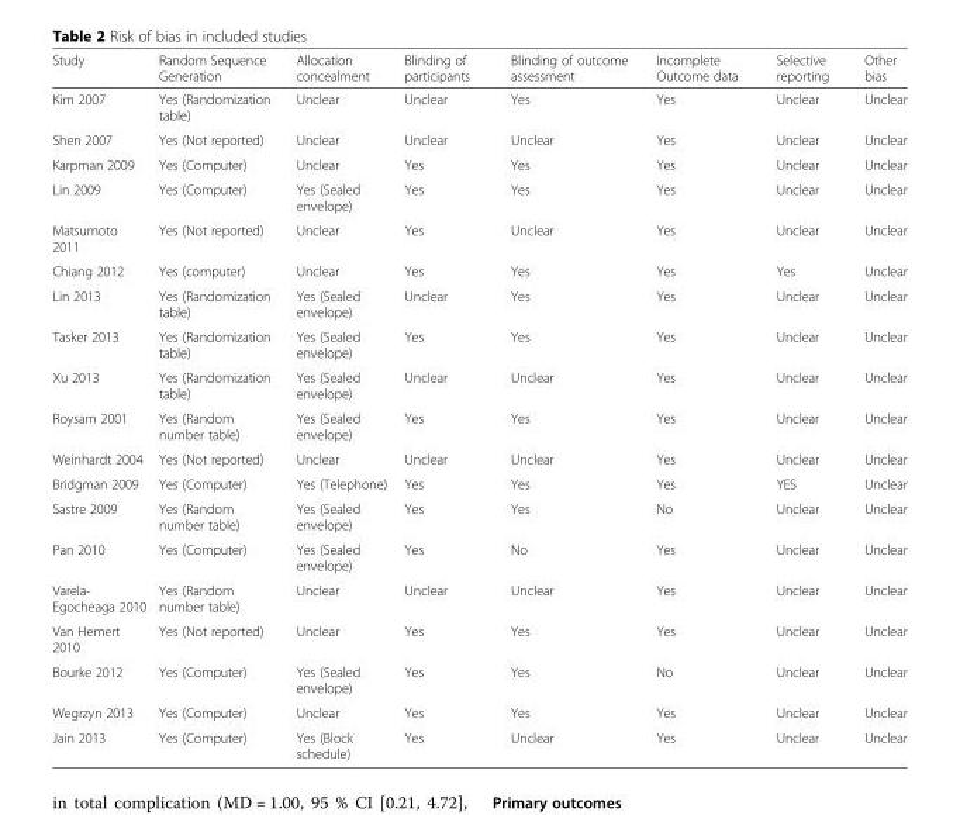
<table><thead><tr><td>Study</td><td>Random Sequence Generation</td><td>Allocation concealment</td><td>Blinding of participants</td><td>Blinding of outcome assessment</td><td>Incomplete Outcome data</td><td>Selective reporting</td><td>Other bias</td></tr></thead><tbody><tr><td>Kim 2007</td><td>Yes (Randomization table)</td><td>Unclear</td><td>Unclear</td><td>Yes</td><td>Yes</td><td>Unclear</td><td>Unclear</td></tr><tr><td>Shen 2007</td><td>Yes (Not reported)</td><td>Unclear</td><td>Unclear</td><td>Unclear</td><td>Yes</td><td>Unclear</td><td>Unclear</td></tr><tr><td>Karpman 2009</td><td>Yes (Computer)</td><td>Unclear</td><td>Yes</td><td>Yes</td><td>Yes</td><td>Unclear</td><td>Unclear</td></tr><tr><td>Lin 2009</td><td>Yes (Computer)</td><td>Yes (Sealed envelope)</td><td>Yes</td><td>Yes</td><td>Yes</td><td>Unclear</td><td>Unclear</td></tr><tr><td>Matsumoto 2011</td><td>Yes (Not reported)</td><td>Unclear</td><td>Yes</td><td>Unclear</td><td>Yes</td><td>Unclear</td><td>Unclear</td></tr><tr><td>Chiang 2012</td><td>Yes (computer)</td><td>Unclear</td><td>Yes</td><td>Yes</td><td>Yes</td><td>Yes</td><td>Unclear</td></tr><tr><td>Lin 2013</td><td>Yes (Randomization table)</td><td>Yes (Sealed envelope)</td><td>Unclear</td><td>Yes</td><td>Yes</td><td>Unclear</td><td>Unclear</td></tr><tr><td>Tasker 2013</td><td>Yes (Randomization table)</td><td>Yes (Sealed envelope)</td><td>Yes</td><td>Yes</td><td>Yes</td><td>Unclear</td><td>Unclear</td></tr><tr><td>Xu 2013</td><td>Yes (Randomization table)</td><td>Yes (Sealed envelope)</td><td>Unclear</td><td>Unclear</td><td>Yes</td><td>Unclear</td><td>Unclear</td></tr><tr><td>Roysam 2001</td><td>Yes (Random number table)</td><td>Yes (Sealed envelope)</td><td>Yes</td><td>Yes</td><td>Yes</td><td>Unclear</td><td>Unclear</td></tr><tr><td>Weinhardt 2004</td><td>Yes (Not reported)</td><td>Unclear</td><td>Unclear</td><td>Unclear</td><td>Yes</td><td>Unclear</td><td>Unclear</td></tr><tr><td>Bridgman 2009</td><td>Yes (Computer)</td><td>Yes (Telephone)</td><td>Yes</td><td>Yes</td><td>Yes</td><td>YES</td><td>Unclear</td></tr><tr><td>Sastre 2009</td><td>Yes (Random number table)</td><td>Yes (Sealed envelope)</td><td>Yes</td><td>Yes</td><td>No</td><td>Unclear</td><td>Unclear</td></tr><tr><td>Pan 2010</td><td>Yes (Computer)</td><td>Yes (Sealed envelope)</td><td>Yes</td><td>No</td><td>Yes</td><td>Unclear</td><td>Unclear</td></tr><tr><td>Varela- Egocheaga 2010</td><td>Yes (Random number table)</td><td>Unclear</td><td>Unclear</td><td>Unclear</td><td>Yes</td><td>Unclear</td><td>Unclear</td></tr><tr><td>Van Hemert 2010</td><td>Yes (Not reported)</td><td>Unclear</td><td>Yes</td><td>Yes</td><td>Yes</td><td>Unclear</td><td>Unclear</td></tr><tr><td>Bourke 2012</td><td>Yes (Computer)</td><td>Yes (Sealed envelope)</td><td>Yes</td><td>Yes</td><td>No</td><td>Unclear</td><td>Unclear</td></tr><tr><td>Wegrzyn 2013</td><td>Yes (Computer)</td><td>Unclear</td><td>Yes</td><td>Yes</td><td>Yes</td><td>Unclear</td><td>Unclear</td></tr><tr><td>Jain 2013</td><td>Yes (Computer)</td><td>Yes (Block schedule)</td><td>Yes</td><td>Unclear</td><td>Yes</td><td>Unclear</td><td>Unclear</td></tr></tbody></table>